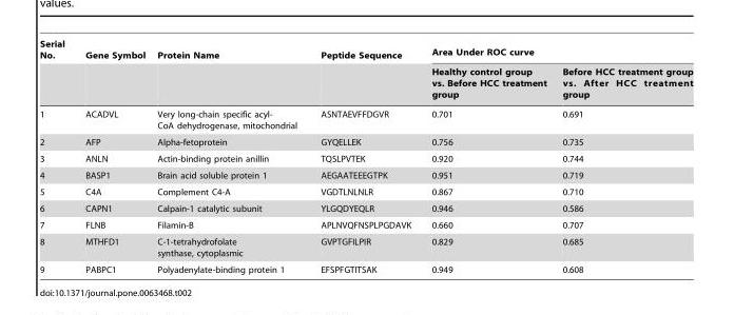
<table><thead><tr><td rowspan="2">Serial No.</td><td rowspan="2">Gene Symbol</td><td rowspan="2">Protein Name</td><td rowspan="2">Peptide Sequence</td><td colspan="2">Area Under ROC curve</td></tr><tr><td>Healthy control group vs. Before HCC treatment group</td><td>Before HCC treatment group vs. After HCC treatment group</td></tr></thead><tbody><tr><td>1</td><td>ACADVL</td><td>Very long-chain specific acyl- CoA dehydrogenase, mitochondrial</td><td>ASNTAEVFFDGVR</td><td>0.701</td><td>0.691</td></tr><tr><td>2</td><td>AFP</td><td>Alpha-fetoprotein</td><td>GYQELLEK</td><td>0.756</td><td>0.735</td></tr><tr><td>3</td><td>ANLN</td><td>Actin-binding protein anillin</td><td>TQSLPVTEK</td><td>0.920</td><td>0.744</td></tr><tr><td>4</td><td>BASP1</td><td>Brain acid soluble protein 1</td><td>AEGAATEEEGTPK</td><td>0.951</td><td>0.719</td></tr><tr><td>5</td><td>C4A</td><td>Complement C4-A</td><td>VGDTLNLNLR</td><td>0.867</td><td>0.710</td></tr><tr><td>6</td><td>CAPN1</td><td>Calpain-1 catalytic subunit</td><td>YLGQDYEQLR</td><td>0.946</td><td>0.586</td></tr><tr><td>7</td><td>FLNB</td><td>Filamin-B</td><td>APLNVQFNSPLPGDAVK</td><td>0.660</td><td>0.707</td></tr><tr><td>8</td><td>MTHFD1</td><td>C-1-tetrahydrofolate synthase, cytoplasmic</td><td>GVPTGFILPIR</td><td>0.829</td><td>0.685</td></tr><tr><td>9</td><td>PABPC1</td><td>Polyadenylate-binding protein 1</td><td>EFSPFGTITSAK</td><td>0.949</td><td>0.608</td></tr></tbody></table>